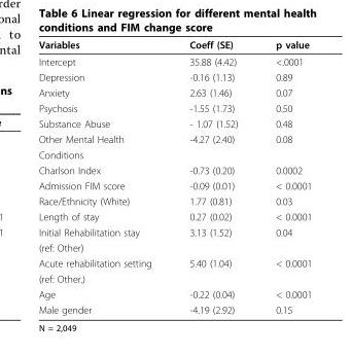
<table><thead><tr><td>Variables</td><td>Coeff (SE)</td><td>p value</td></tr></thead><tbody><tr><td>Intercept</td><td>35.88 (4.42)</td><td>&lt;.0001</td></tr><tr><td>Depression</td><td>-0.16 (1.13)</td><td>0.89</td></tr><tr><td>Anxiety</td><td>2.63 (1.46)</td><td>0.07</td></tr><tr><td>Psychosis</td><td>-1.55 (1.73)</td><td>0.50</td></tr><tr><td>Substance Abuse</td><td>- 1.07 (1.52)</td><td>0.48</td></tr><tr><td>Other Mental Health</td><td>-4.27 (2.40)</td><td>0.08</td></tr><tr><td colspan="3">Conditions</td></tr><tr><td>Charlson Index</td><td>-0.73 (0.20)</td><td>0.0002</td></tr><tr><td>Admission FIM score</td><td>-0.09 (0.01)</td><td>&lt; 0.0001</td></tr><tr><td>Race/Ethnicity (White)</td><td>1.77 (0.81)</td><td>0.03</td></tr><tr><td>Length of stay</td><td>0.27 (0.02)</td><td>&lt; 0.0001</td></tr><tr><td>Initial Rehabilitation stay</td><td>3.13 (1.52)</td><td>0.04</td></tr><tr><td colspan="3">(ref: Other)</td></tr><tr><td>Acute rehabilitation setting</td><td>5.40 (1.04)</td><td>&lt; 0.0001</td></tr><tr><td colspan="3">(ref: Other.)</td></tr><tr><td>Age</td><td>-0.22 (0.04)</td><td>&lt; 0.0001</td></tr><tr><td>Male gender</td><td>-4.19 (2.92)</td><td>0.15</td></tr></tbody></table>